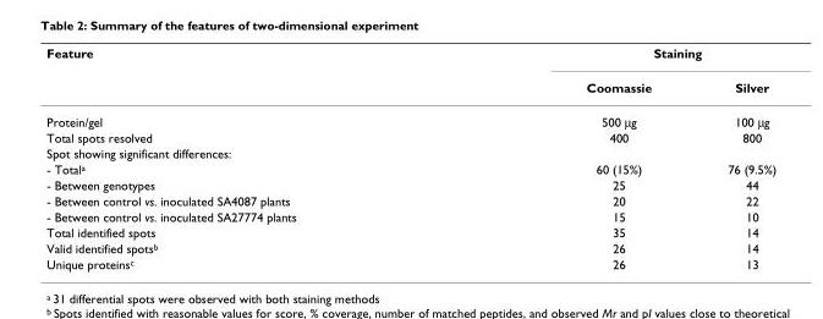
<table><thead><tr><td rowspan="2">Feature</td><td colspan="2">Staining</td></tr><tr><td>Coomassie</td><td>Silver</td></tr></thead><tbody><tr><td>Protein/gel</td><td>500 μg</td><td>100 μg</td></tr><tr><td>Total spots resolved</td><td>400</td><td>800</td></tr><tr><td colspan="3">Spot showing significant differences:</td></tr><tr><td>- Total<sup>a</sup></td><td>60 (15%)</td><td>76 (9.5%)</td></tr><tr><td>- Between genotypes</td><td>25</td><td>44</td></tr><tr><td>- Between control vs. inoculated SA4087 plants</td><td>20</td><td>22</td></tr><tr><td>- Between control vs. inoculated SA27774 plants</td><td>15</td><td>10</td></tr><tr><td>Total identified spots</td><td>35</td><td>14</td></tr><tr><td>Valid identified spots<sup>b</sup></td><td>26</td><td>14</td></tr><tr><td>Unique proteins<sup>c</sup></td><td>26</td><td>13</td></tr></tbody></table>